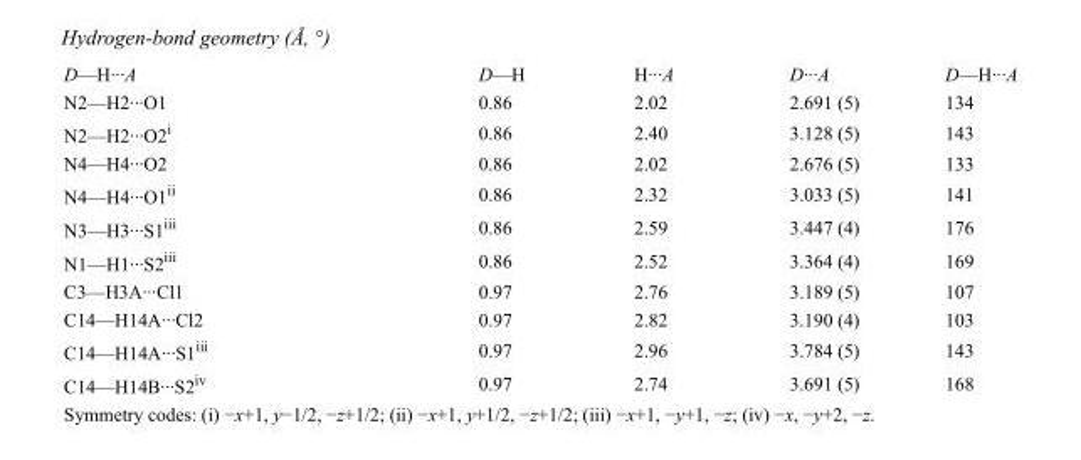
<table><tbody><tr><td>D—H···A</td><td>D—H</td><td>H···A</td><td>D···A</td><td>D—H···A</td></tr><tr><td>N2—H2···O1</td><td>0.86</td><td>2.02</td><td>2.691 (5)</td><td>134</td></tr><tr><td>N2—H2···O2<sup>i</sup></td><td>0.86</td><td>2.40</td><td>3.128 (5)</td><td>143</td></tr><tr><td>N4—H4···O2</td><td>0.86</td><td>2.02</td><td>2.676 (5)</td><td>133</td></tr><tr><td>N4—H4···O1<sup>ii</sup></td><td>0.86</td><td>2.32</td><td>3.033 (5)</td><td>141</td></tr><tr><td>N3—H3···S1<sup>iii</sup></td><td>0.86</td><td>2.59</td><td>3.447 (4)</td><td>176</td></tr><tr><td>N1—H1···S2<sup>iii</sup></td><td>0.86</td><td>2.52</td><td>3.364 (4)</td><td>169</td></tr><tr><td>C3—H3A···Cl1</td><td>0.97</td><td>2.76</td><td>3.189 (5)</td><td>107</td></tr><tr><td>C14—H14A···Cl2</td><td>0.97</td><td>2.82</td><td>3.190 (4)</td><td>103</td></tr><tr><td>C14—H14A···S1<sup>iii</sup></td><td>0.97</td><td>2.96</td><td>3.784 (5)</td><td>143</td></tr><tr><td>C14—H14B···S2<sup>iv</sup></td><td>0.97</td><td>2.74</td><td>3.691 (5)</td><td>168</td></tr></tbody></table>